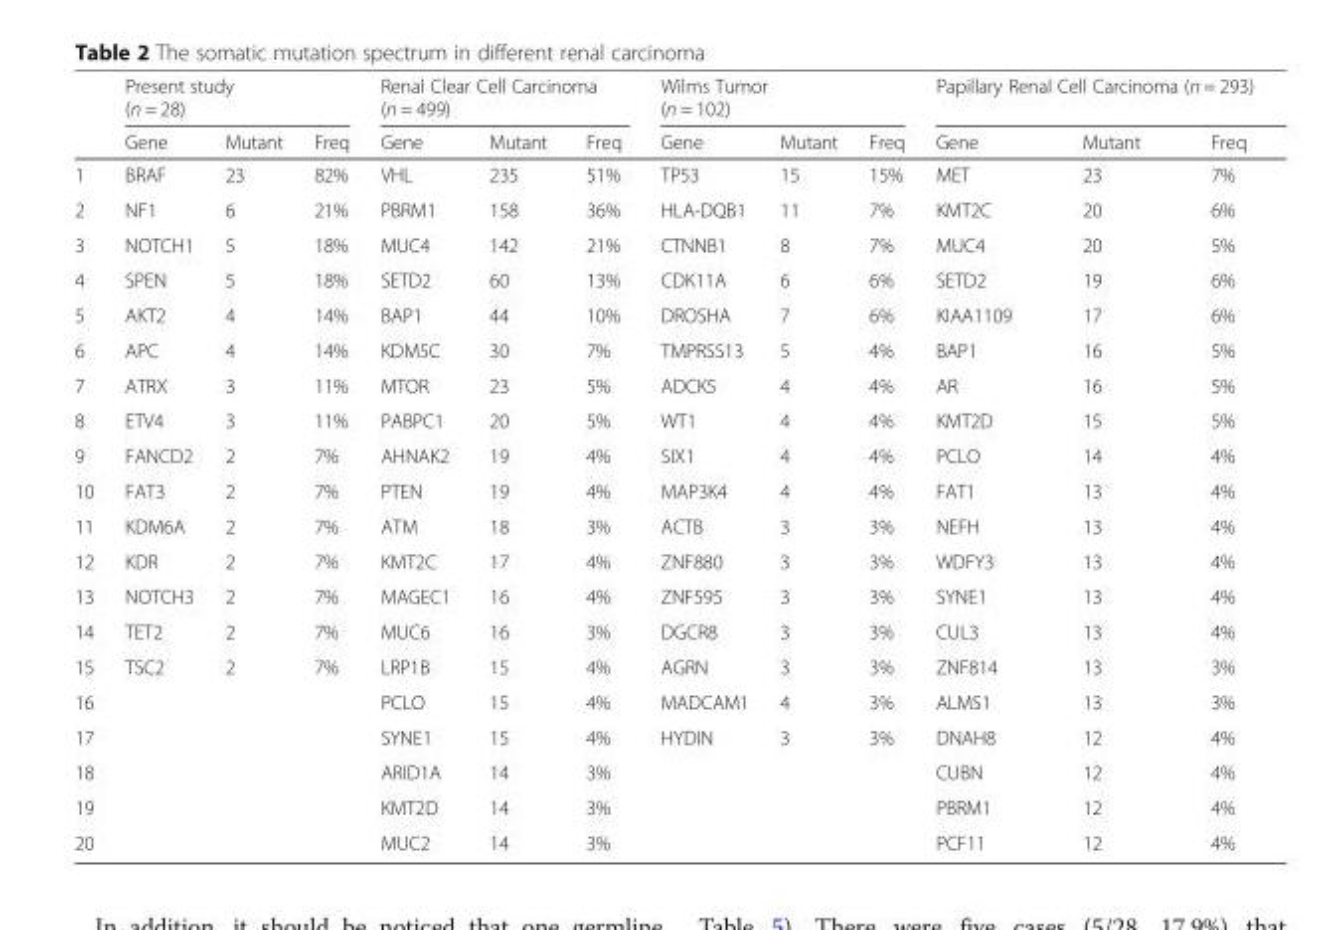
<table><thead><tr><td rowspan="2"></td><td colspan="3">Present study (n = 28)</td><td colspan="3">Renal Clear Cell Carcinoma (n = 499)</td><td colspan="3">Wilms Tumor (n = 102)</td><td colspan="3">Papillary Renal Cell Carcinoma (n = 293)</td></tr><tr><td>Gene</td><td>Mutant</td><td>Freq</td><td>Gene</td><td>Mutant</td><td>Freq</td><td>Gene</td><td>Mutant</td><td>Freq</td><td>Gene</td><td>Mutant</td><td>Freq</td></tr></thead><tbody><tr><td>1</td><td>BRAF</td><td>23</td><td>82%</td><td>VHL</td><td>235</td><td>51%</td><td>TP53</td><td>15</td><td>15%</td><td>MET</td><td>23</td><td>7%</td></tr><tr><td>2</td><td>NF1</td><td>6</td><td>21%</td><td>PBRM1</td><td>158</td><td>36%</td><td>HLA-DQB1</td><td>11</td><td>7%</td><td>KMT2C</td><td>20</td><td>6%</td></tr><tr><td>3</td><td>NOTCH1</td><td>5</td><td>18%</td><td>MUC4</td><td>142</td><td>21%</td><td>CTNNB1</td><td>8</td><td>7%</td><td>MUC4</td><td>20</td><td>5%</td></tr><tr><td>4</td><td>SPEN</td><td>5</td><td>18%</td><td>SETD2</td><td>60</td><td>13%</td><td>CDK11A</td><td>6</td><td>6%</td><td>SETD2</td><td>19</td><td>6%</td></tr><tr><td>5</td><td>AKT2</td><td>4</td><td>14%</td><td>BAP1</td><td>44</td><td>10%</td><td>DROSHA</td><td>7</td><td>6%</td><td>KIAA1109</td><td>17</td><td>6%</td></tr><tr><td>6</td><td>APC</td><td>4</td><td>14%</td><td>KDM5C</td><td>30</td><td>7%</td><td>TMPRSS13</td><td>5</td><td>4%</td><td>BAP1</td><td>16</td><td>5%</td></tr><tr><td>7</td><td>ATRX</td><td>3</td><td>11%</td><td>MTOR</td><td>23</td><td>5%</td><td>ADCK5</td><td>4</td><td>4%</td><td>AR</td><td>16</td><td>5%</td></tr><tr><td>8</td><td>ETV4</td><td>3</td><td>11%</td><td>PABPC1</td><td>20</td><td>5%</td><td>WT1</td><td>4</td><td>4%</td><td>KMT2D</td><td>15</td><td>5%</td></tr><tr><td>9</td><td>FANCD2</td><td>2</td><td>7%</td><td>AHNAK2</td><td>19</td><td>4%</td><td>SIX1</td><td>4</td><td>4%</td><td>PCLO</td><td>14</td><td>4%</td></tr><tr><td>10</td><td>FAT3</td><td>2</td><td>7%</td><td>PTEN</td><td>19</td><td>4%</td><td>MAP3K4</td><td>4</td><td>4%</td><td>FAT1</td><td>13</td><td>4%</td></tr><tr><td>11</td><td>KDM6A</td><td>2</td><td>7%</td><td>ATM</td><td>18</td><td>3%</td><td>ACTB</td><td>3</td><td>3%</td><td>NEFH</td><td>13</td><td>4%</td></tr><tr><td>12</td><td>KDR</td><td>2</td><td>7%</td><td>KMT2C</td><td>17</td><td>4%</td><td>ZNF880</td><td>3</td><td>3%</td><td>WDFY3</td><td>13</td><td>4%</td></tr><tr><td>13</td><td>NOTCH3</td><td>2</td><td>7%</td><td>MAGEC1</td><td>16</td><td>4%</td><td>ZNF595</td><td>3</td><td>3%</td><td>SYNE1</td><td>13</td><td>4%</td></tr><tr><td>14</td><td>TET2</td><td>2</td><td>7%</td><td>MUC6</td><td>16</td><td>3%</td><td>DGCR8</td><td>3</td><td>3%</td><td>CUL3</td><td>13</td><td>4%</td></tr><tr><td>15</td><td>TSC2</td><td>2</td><td>7%</td><td>LRP1B</td><td>15</td><td>4%</td><td>AGRN</td><td>3</td><td>3%</td><td>ZNF814</td><td>13</td><td>3%</td></tr><tr><td>16</td><td></td><td></td><td></td><td>PCLO</td><td>15</td><td>4%</td><td>MADCAM1</td><td>4</td><td>3%</td><td>ALMS1</td><td>13</td><td>3%</td></tr><tr><td>17</td><td></td><td></td><td></td><td>SYNE1</td><td>15</td><td>4%</td><td>HYDIN</td><td>3</td><td>3%</td><td>DNAH8</td><td>12</td><td>4%</td></tr><tr><td>18</td><td></td><td></td><td></td><td>ARID1A</td><td>14</td><td>3%</td><td></td><td></td><td></td><td>CUBN</td><td>12</td><td>4%</td></tr><tr><td>19</td><td></td><td></td><td></td><td>KMT2D</td><td>14</td><td>3%</td><td></td><td></td><td></td><td>PBRM1</td><td>12</td><td>4%</td></tr><tr><td>20</td><td></td><td></td><td></td><td>MUC2</td><td>14</td><td>3%</td><td></td><td></td><td></td><td>PCF11</td><td>12</td><td>4%</td></tr></tbody></table>